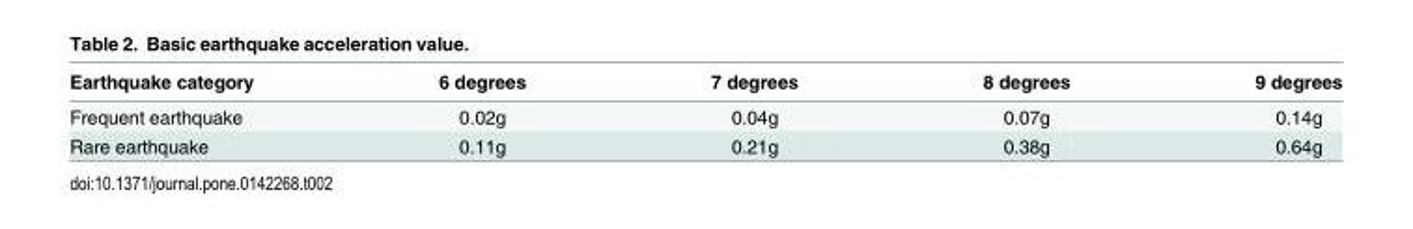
<table><thead><tr><td>Earthquake category</td><td>6 degrees</td><td>7 degrees</td><td>8 degrees</td><td>9 degrees</td></tr></thead><tbody><tr><td>Frequent earthquake</td><td>0.02g</td><td>0.04g</td><td>0.07g</td><td>0.14g</td></tr><tr><td>Rare earthquake</td><td>0.11g</td><td>0.21g</td><td>0.38g</td><td>0.64g</td></tr></tbody></table>